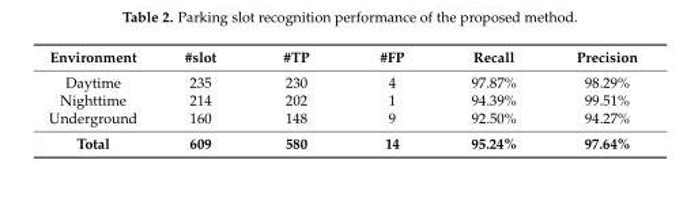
<table><thead><tr><td>Environment</td><td>#slot</td><td>#TP</td><td>#FP</td><td>Recall</td><td>Precision</td></tr></thead><tbody><tr><td>Daytime</td><td>235</td><td>230</td><td>4</td><td>97.87%</td><td>98.29%</td></tr><tr><td>Nighttime</td><td>214</td><td>202</td><td>1</td><td>94.39%</td><td>99.51%</td></tr><tr><td>Underground</td><td>160</td><td>148</td><td>9</td><td>92.50%</td><td>94.27%</td></tr><tr><td>Total</td><td>609</td><td>580</td><td>14</td><td>95.24%</td><td>97.64%</td></tr></tbody></table>